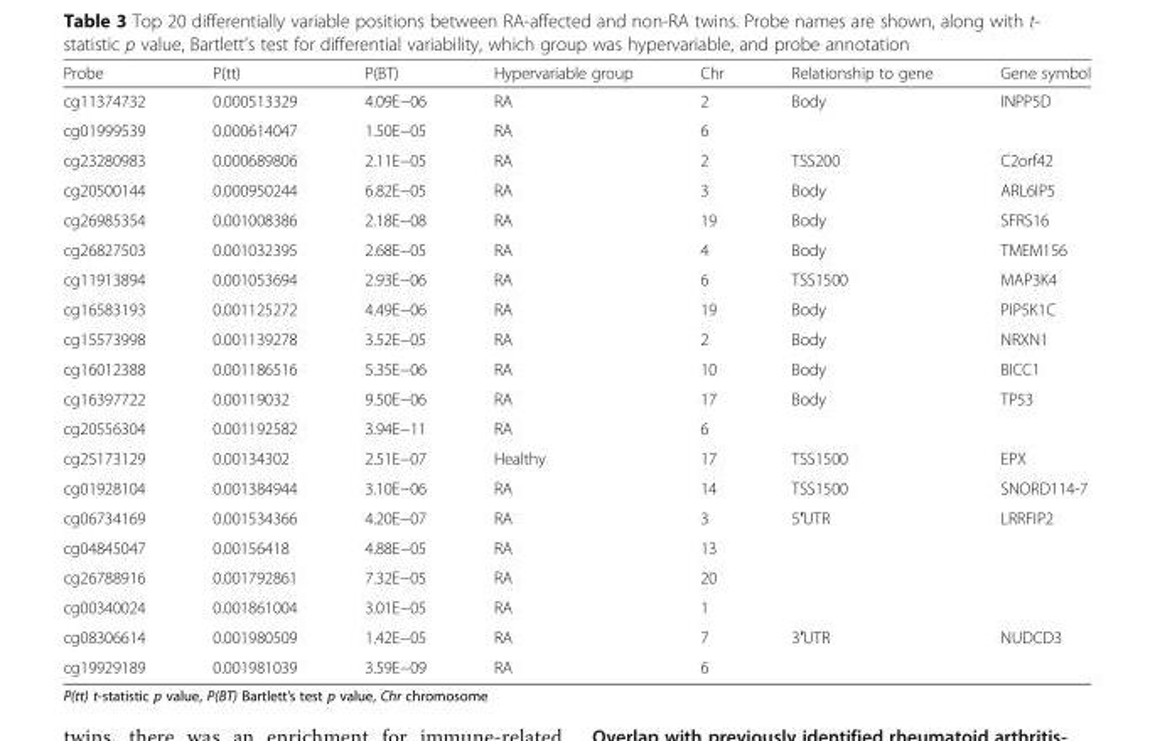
<table><thead><tr><td>Probe</td><td>P(tt)</td><td>P(BT)</td><td>Hypervariable group</td><td>Chr</td><td>Relationship to gene</td><td>Gene symbol</td></tr></thead><tbody><tr><td>cg11374732</td><td>0.000513329</td><td>4.09E−06</td><td>RA</td><td>2</td><td>Body</td><td>INPP5D</td></tr><tr><td>cg01999539</td><td>0.000614047</td><td>1.50E−05</td><td>RA</td><td>6</td><td></td><td></td></tr><tr><td>cg23280983</td><td>0.000689806</td><td>2.11E−05</td><td>RA</td><td>2</td><td>TSS200</td><td>C2orf42</td></tr><tr><td>cg20500144</td><td>0.000950244</td><td>6.82E−05</td><td>RA</td><td>3</td><td>Body</td><td>ARL6IP5</td></tr><tr><td>cg26985354</td><td>0.001008386</td><td>2.18E−08</td><td>RA</td><td>19</td><td>Body</td><td>SFRS16</td></tr><tr><td>cg26827503</td><td>0.001032395</td><td>2.68E−05</td><td>RA</td><td>4</td><td>Body</td><td>TMEM156</td></tr><tr><td>cg11913894</td><td>0.001053694</td><td>2.93E−06</td><td>RA</td><td>6</td><td>TSS1500</td><td>MAP3K4</td></tr><tr><td>cg16583193</td><td>0.001125272</td><td>4.49E−06</td><td>RA</td><td>19</td><td>Body</td><td>PIP5K1C</td></tr><tr><td>cg15573998</td><td>0.001139278</td><td>3.52E−05</td><td>RA</td><td>2</td><td>Body</td><td>NRXN1</td></tr><tr><td>cg16012388</td><td>0.001186516</td><td>5.35E−06</td><td>RA</td><td>10</td><td>Body</td><td>BICC1</td></tr><tr><td>cg16397722</td><td>0.00119032</td><td>9.50E−06</td><td>RA</td><td>17</td><td>Body</td><td>TP53</td></tr><tr><td>cg20556304</td><td>0.001192582</td><td>3.94E−11</td><td>RA</td><td>6</td><td></td><td></td></tr><tr><td>cg25173129</td><td>0.00134302</td><td>2.51E−07</td><td>Healthy</td><td>17</td><td>TSS1500</td><td>EPX</td></tr><tr><td>cg01928104</td><td>0.001384944</td><td>3.10E−06</td><td>RA</td><td>14</td><td>TSS1500</td><td>SNORD114-7</td></tr><tr><td>cg06734169</td><td>0.001534366</td><td>4.20E−07</td><td>RA</td><td>3</td><td>5′UTR</td><td>LRRFIP2</td></tr><tr><td>cg04845047</td><td>0.00156418</td><td>4.88E−05</td><td>RA</td><td>13</td><td></td><td></td></tr><tr><td>cg26788916</td><td>0.001792861</td><td>7.32E−05</td><td>RA</td><td>20</td><td></td><td></td></tr><tr><td>cg00340024</td><td>0.001861004</td><td>3.01E−05</td><td>RA</td><td>1</td><td></td><td></td></tr><tr><td>cg08306614</td><td>0.001980509</td><td>1.42E−05</td><td>RA</td><td>7</td><td>3′UTR</td><td>NUDCD3</td></tr><tr><td>cg19929189</td><td>0.001981039</td><td>3.59E−09</td><td>RA</td><td>6</td><td></td><td></td></tr></tbody></table>